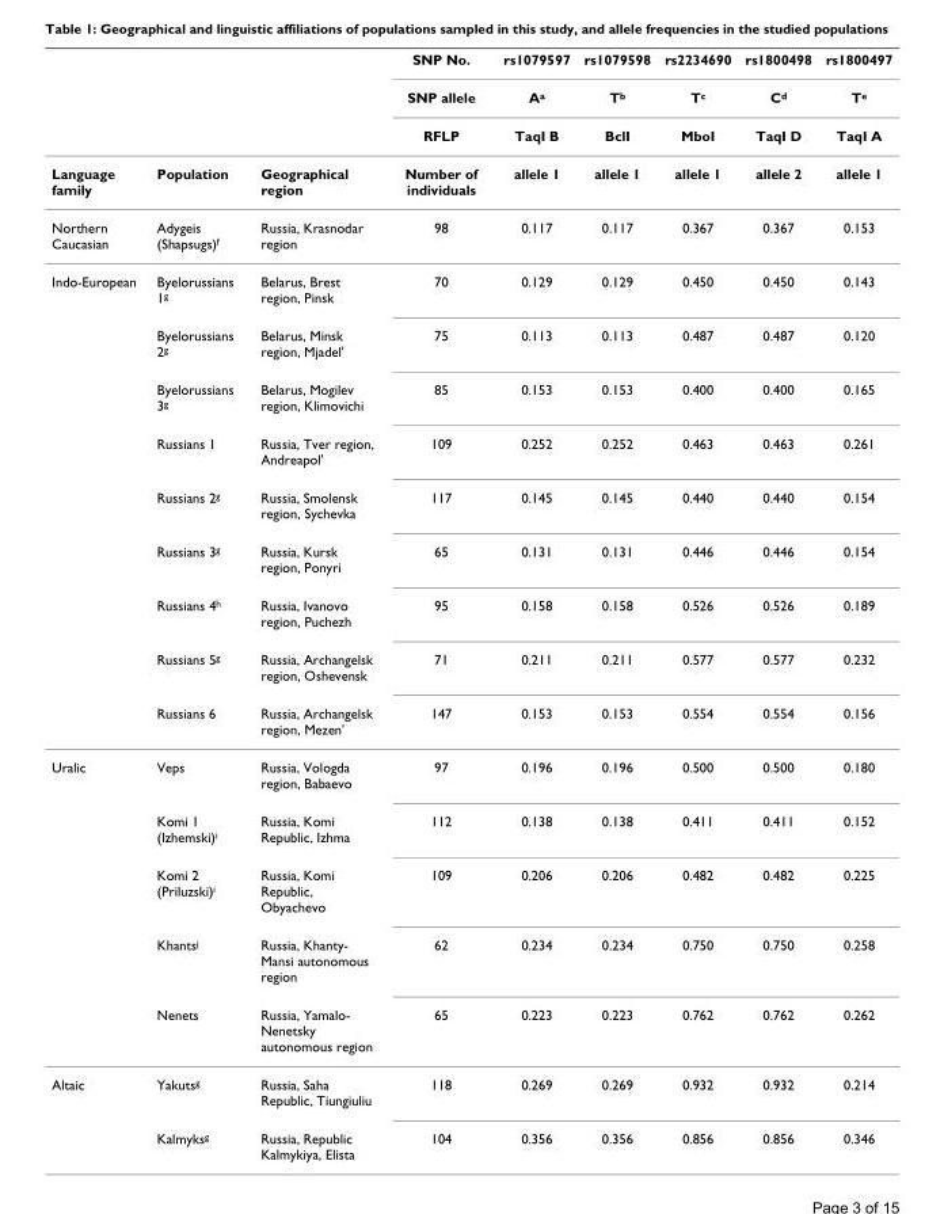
<table><thead><tr><td rowspan="3"></td><td rowspan="3"></td><td rowspan="3"></td><td rowspan="3">SNP No. SNP allele RFLP</td><td rowspan="3">rs1079597 Aa TaqI B</td><td rowspan="3">rs1079598 Tb BclI</td><td rowspan="3">rs2234690 Tc MboI</td><td rowspan="3">rs1800498 Cd TaqI D</td><td rowspan="3">rs1800497 Te TaqI A</td></tr><tr></tr><tr></tr></thead><tbody><tr><td>Language family</td><td>Population</td><td>Geographical region</td><td>Number of individuals</td><td>allele 1</td><td>allele 1</td><td>allele 1</td><td>allele 2</td><td>allele 1</td></tr><tr><td>Northern Caucasian</td><td>Adygeis (Shapsugs)<sup>f</sup></td><td>Russia, Krasnodar region</td><td>98</td><td>0.117</td><td>0.117</td><td>0.367</td><td>0.367</td><td>0.153</td></tr><tr><td rowspan="9">Indo-European</td><td>Byelorussians 1<sup>g</sup></td><td>Belarus, Brest region, Pinsk</td><td>70</td><td>0.129</td><td>0.129</td><td>0.450</td><td>0.450</td><td>0.143</td></tr><tr><td>Byelorussians 2<sup>g</sup></td><td>Belarus, Minsk region, Mjadel&#x27;</td><td>75</td><td>0.113</td><td>0.113</td><td>0.487</td><td>0.487</td><td>0.120</td></tr><tr><td>Byelorussians 3<sup>g</sup></td><td>Belarus, Mogilev region, Klimovichi</td><td>85</td><td>0.153</td><td>0.153</td><td>0.400</td><td>0.400</td><td>0.165</td></tr><tr><td>Russians 1</td><td>Russia, Tver region, Andreapol&#x27;</td><td>109</td><td>0.252</td><td>0.252</td><td>0.463</td><td>0.463</td><td>0.261</td></tr><tr><td>Russians 2<sup>g</sup></td><td>Russia, Smolensk region, Sychevka</td><td>117</td><td>0.145</td><td>0.145</td><td>0.440</td><td>0.440</td><td>0.154</td></tr><tr><td>Russians 3<sup>g</sup></td><td>Russia, Kursk region, Ponyri</td><td>65</td><td>0.131</td><td>0.131</td><td>0.446</td><td>0.446</td><td>0.154</td></tr><tr><td>Russians 4<sup>h</sup></td><td>Russia, Ivanovo region, Puchezh</td><td>95</td><td>0.158</td><td>0.158</td><td>0.526</td><td>0.526</td><td>0.189</td></tr><tr><td>Russians 5<sup>g</sup></td><td>Russia, Archangelsk region, Oshevensk</td><td>71</td><td>0.211</td><td>0.211</td><td>0.577</td><td>0.577</td><td>0.232</td></tr><tr><td>Russians 6</td><td>Russia, Archangelsk region, Mezen&#x27;</td><td>147</td><td>0.153</td><td>0.153</td><td>0.554</td><td>0.554</td><td>0.156</td></tr><tr><td rowspan="5">Uralic</td><td>Veps</td><td>Russia, Vologda region, Babaevo</td><td>97</td><td>0.196</td><td>0.196</td><td>0.500</td><td>0.500</td><td>0.180</td></tr><tr><td>Komi 1 (Izhemski)<sup>i</sup></td><td>Russia, Komi Republic, Izhma</td><td>112</td><td>0.138</td><td>0.138</td><td>0.411</td><td>0.411</td><td>0.152</td></tr><tr><td>Komi 2 (Priluzski)<sup>i</sup></td><td>Russia, Komi Republic, Obyachevo</td><td>109</td><td>0.206</td><td>0.206</td><td>0.482</td><td>0.482</td><td>0.225</td></tr><tr><td>Khants<sup>j</sup></td><td>Russia, Khanty- Mansi autonomous region</td><td>62</td><td>0.234</td><td>0.234</td><td>0.750</td><td>0.750</td><td>0.258</td></tr><tr><td>Nenets</td><td>Russia, Yamalo- Nenetsky autonomous region</td><td>65</td><td>0.223</td><td>0.223</td><td>0.762</td><td>0.762</td><td>0.262</td></tr><tr><td rowspan="2">Altaic</td><td>Yakuts<sup>g</sup></td><td>Russia, Saha Republic, Tiungiuliu</td><td>118</td><td>0.269</td><td>0.269</td><td>0.932</td><td>0.932</td><td>0.214</td></tr><tr><td>Kalmyks<sup>g</sup></td><td>Russia, Republic Kalmykiya, Elista</td><td>104</td><td>0.356</td><td>0.356</td><td>0.856</td><td>0.856</td><td>0.346</td></tr></tbody></table>